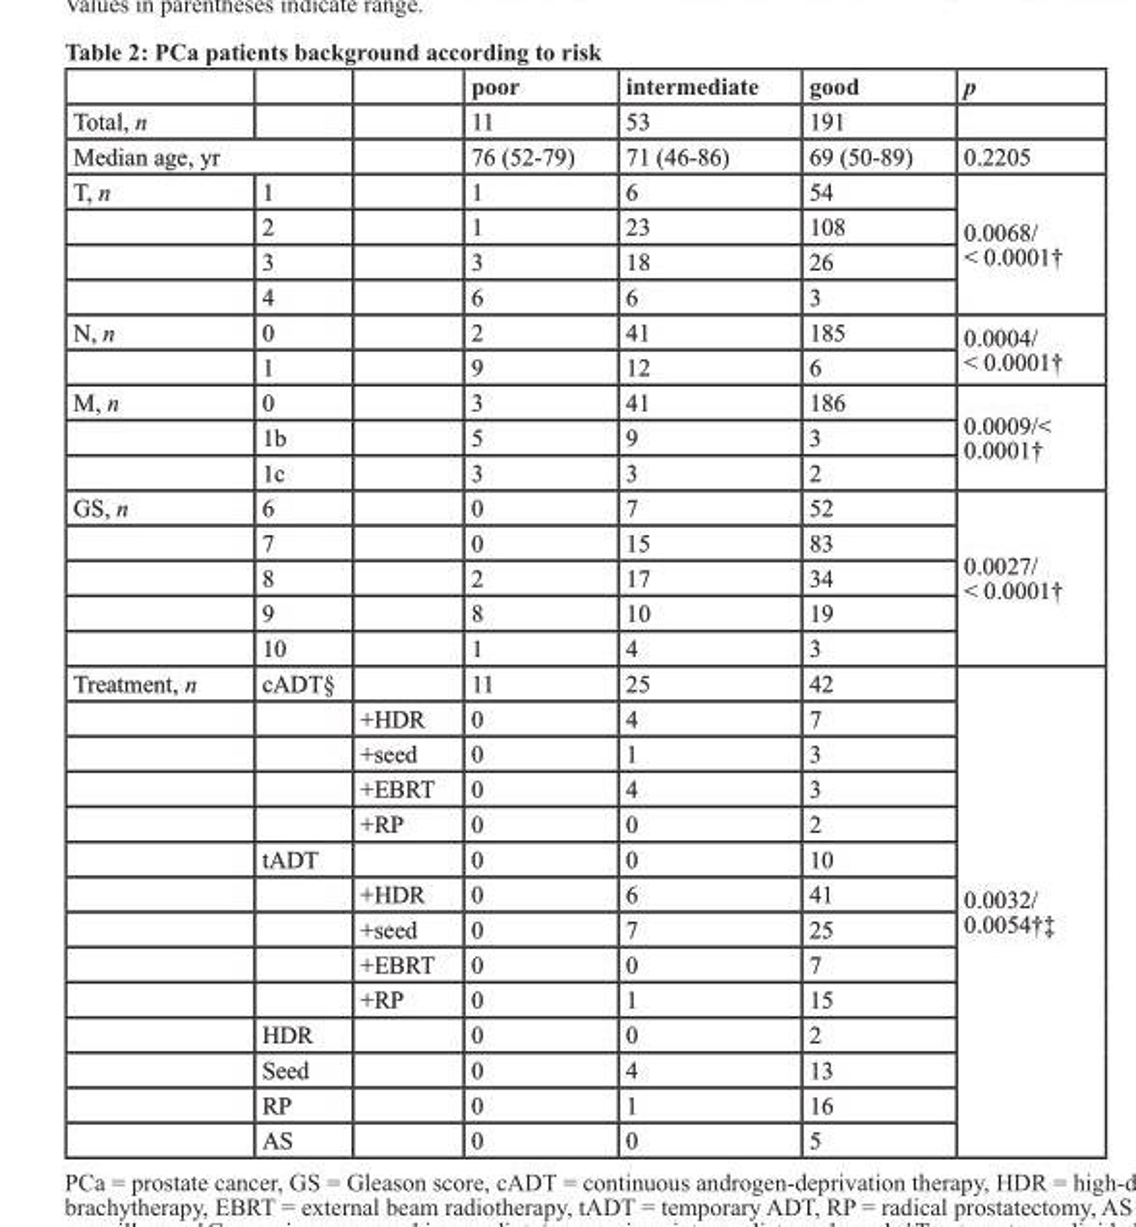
<table><thead><tr><td></td><td></td><td></td><td>poor</td><td>intermediate</td><td>good</td><td>p</td></tr></thead><tbody><tr><td>Total, n</td><td></td><td></td><td>11</td><td>53</td><td>191</td><td></td></tr><tr><td colspan="2">Median age, yr</td><td></td><td>76 (52-79)</td><td>71 (46-86)</td><td>69 (50-89)</td><td>0.2205</td></tr><tr><td rowspan="4">T, n</td><td>1</td><td></td><td>1</td><td>6</td><td>54</td><td rowspan="4">0.0068/ &lt; 0.0001†</td></tr><tr><td>2</td><td></td><td>1</td><td>23</td><td>108</td></tr><tr><td>3</td><td></td><td>3</td><td>18</td><td>26</td></tr><tr><td>4</td><td></td><td>6</td><td>6</td><td>3</td></tr><tr><td rowspan="2">N, n</td><td>0</td><td></td><td>2</td><td>41</td><td>185</td><td rowspan="2">0.0004/ &lt; 0.0001†</td></tr><tr><td>1</td><td></td><td>9</td><td>12</td><td>6</td></tr><tr><td rowspan="3">M, n</td><td>0</td><td></td><td>3</td><td>41</td><td>186</td><td rowspan="3">0.0009/&lt; 0.0001†</td></tr><tr><td>1b</td><td></td><td>5</td><td>9</td><td>3</td></tr><tr><td>1c</td><td></td><td>3</td><td>3</td><td>2</td></tr><tr><td rowspan="5">GS, n</td><td>6</td><td></td><td>0</td><td>7</td><td>52</td><td rowspan="5">0.0027/ &lt; 0.0001†</td></tr><tr><td>7</td><td></td><td>0</td><td>15</td><td>83</td></tr><tr><td>8</td><td></td><td>2</td><td>17</td><td>34</td></tr><tr><td>9</td><td></td><td>8</td><td>10</td><td>19</td></tr><tr><td>10</td><td></td><td>1</td><td>4</td><td>3</td></tr><tr><td rowspan="14">Treatment, n</td><td>cADT§</td><td></td><td>11</td><td>25</td><td>42</td><td rowspan="14">0.0032/ 0.0054†‡</td></tr><tr><td></td><td>+HDR</td><td>0</td><td>4</td><td>7</td></tr><tr><td></td><td>+seed</td><td>0</td><td>1</td><td>3</td></tr><tr><td></td><td>+EBRT</td><td>0</td><td>4</td><td>3</td></tr><tr><td></td><td>+RP</td><td>0</td><td>0</td><td>2</td></tr><tr><td>tADT</td><td></td><td>0</td><td>0</td><td>10</td></tr><tr><td></td><td>+HDR</td><td>0</td><td>6</td><td>41</td></tr><tr><td></td><td>+seed</td><td>0</td><td>7</td><td>25</td></tr><tr><td></td><td>+EBRT</td><td>0</td><td>0</td><td>7</td></tr><tr><td></td><td>+RP</td><td>0</td><td>1</td><td>15</td></tr><tr><td>HDR</td><td></td><td>0</td><td>0</td><td>2</td></tr><tr><td>Seed</td><td></td><td>0</td><td>4</td><td>13</td></tr><tr><td>RP</td><td></td><td>0</td><td>1</td><td>16</td></tr><tr><td>AS</td><td></td><td>0</td><td>0</td><td>5</td></tr></tbody></table>